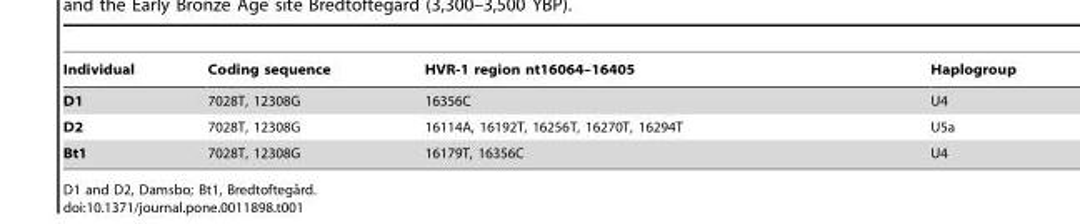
<table><thead><tr><td>Individual</td><td>Coding sequence</td><td>HVR-1 region nt16064–16405</td><td>Haplogroup</td></tr></thead><tbody><tr><td>D1</td><td>7028T, 12308G</td><td>16356C</td><td>U4</td></tr><tr><td>D2</td><td>7028T, 12308G</td><td>16114A, 16192T, 16256T, 16270T, 16294T</td><td>U5a</td></tr><tr><td>Bt1</td><td>7028T, 12308G</td><td>16179T, 16356C</td><td>U4</td></tr></tbody></table>